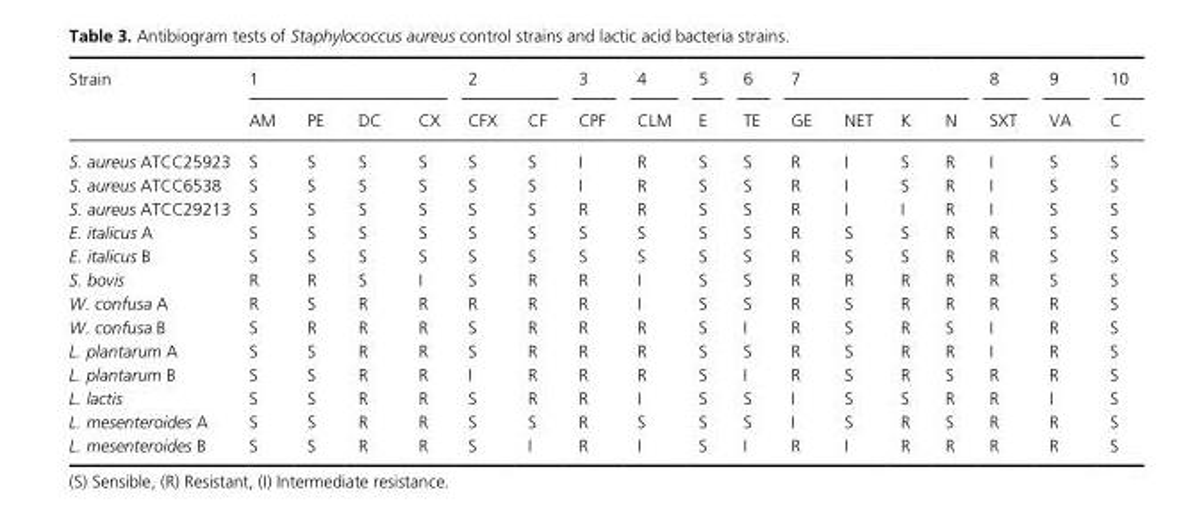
<table><thead><tr><td rowspan="2">Strain</td><td colspan="4">1</td><td colspan="2">2</td><td rowspan="2">3 CPF</td><td rowspan="2">4 CLM</td><td rowspan="2">5 E</td><td rowspan="2">6 TE</td><td colspan="4">7</td><td rowspan="2">8 SXT</td><td rowspan="2">9 VA</td><td rowspan="2">10 C</td></tr><tr><td>AM</td><td>PE</td><td>DC</td><td>CX</td><td>CFX</td><td>CF</td><td>GE</td><td>NET</td><td>K</td><td>N</td></tr></thead><tbody><tr><td>S. aureus ATCC25923</td><td>S</td><td>S</td><td>S</td><td>S</td><td>S</td><td>S</td><td>I</td><td>R</td><td>S</td><td>S</td><td>R</td><td>I</td><td>S</td><td>R</td><td>I</td><td>S</td><td>S</td></tr><tr><td>S. aureus ATCC6538</td><td>S</td><td>S</td><td>S</td><td>S</td><td>S</td><td>S</td><td>I</td><td>R</td><td>S</td><td>S</td><td>R</td><td>I</td><td>S</td><td>R</td><td>I</td><td>S</td><td>S</td></tr><tr><td>S. aureus ATCC29213</td><td>S</td><td>S</td><td>S</td><td>S</td><td>S</td><td>S</td><td>R</td><td>R</td><td>S</td><td>S</td><td>R</td><td>I</td><td>I</td><td>R</td><td>I</td><td>S</td><td>S</td></tr><tr><td>E. italicus A</td><td>S</td><td>S</td><td>S</td><td>S</td><td>S</td><td>S</td><td>S</td><td>S</td><td>S</td><td>S</td><td>R</td><td>S</td><td>S</td><td>R</td><td>R</td><td>S</td><td>S</td></tr><tr><td>E. italicus B</td><td>S</td><td>S</td><td>S</td><td>S</td><td>S</td><td>S</td><td>S</td><td>S</td><td>S</td><td>S</td><td>R</td><td>S</td><td>S</td><td>R</td><td>R</td><td>S</td><td>S</td></tr><tr><td>S. bovis</td><td>R</td><td>R</td><td>S</td><td>I</td><td>S</td><td>R</td><td>R</td><td>I</td><td>S</td><td>S</td><td>R</td><td>R</td><td>R</td><td>R</td><td>R</td><td>S</td><td>S</td></tr><tr><td>W. confusa A</td><td>R</td><td>S</td><td>R</td><td>R</td><td>R</td><td>R</td><td>R</td><td>I</td><td>S</td><td>S</td><td>R</td><td>S</td><td>R</td><td>R</td><td>R</td><td>R</td><td>S</td></tr><tr><td>W. confusa B</td><td>S</td><td>R</td><td>R</td><td>R</td><td>S</td><td>R</td><td>R</td><td>R</td><td>S</td><td>I</td><td>R</td><td>S</td><td>R</td><td>S</td><td>I</td><td>R</td><td>S</td></tr><tr><td>L. plantarum A</td><td>S</td><td>S</td><td>R</td><td>R</td><td>S</td><td>R</td><td>R</td><td>R</td><td>S</td><td>S</td><td>R</td><td>S</td><td>R</td><td>R</td><td>I</td><td>R</td><td>S</td></tr><tr><td>L. plantarum B</td><td>S</td><td>S</td><td>R</td><td>R</td><td>I</td><td>R</td><td>R</td><td>R</td><td>S</td><td>I</td><td>R</td><td>S</td><td>R</td><td>S</td><td>R</td><td>R</td><td>S</td></tr><tr><td>L. lactis</td><td>S</td><td>S</td><td>R</td><td>R</td><td>S</td><td>R</td><td>R</td><td>I</td><td>S</td><td>S</td><td>I</td><td>S</td><td>S</td><td>R</td><td>R</td><td>I</td><td>S</td></tr><tr><td>L. mesenteroides A</td><td>S</td><td>S</td><td>R</td><td>R</td><td>S</td><td>S</td><td>R</td><td>S</td><td>S</td><td>S</td><td>I</td><td>S</td><td>R</td><td>S</td><td>R</td><td>R</td><td>S</td></tr><tr><td>L. mesenteroides B</td><td>S</td><td>S</td><td>R</td><td>R</td><td>S</td><td>I</td><td>R</td><td>I</td><td>S</td><td>I</td><td>R</td><td>I</td><td>R</td><td>R</td><td>R</td><td>R</td><td>S</td></tr></tbody></table>